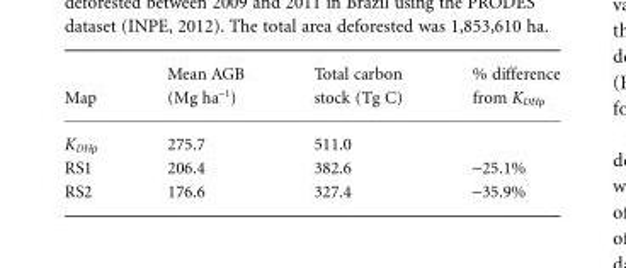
<table><thead><tr><td>Map</td><td>Mean AGB (Mg ha<sup>−1</sup>)</td><td>Total carbon stock (Tg C)</td><td>% difference from K<sub>DHρ</sub></td></tr></thead><tbody><tr><td>K<sub>DHρ</sub></td><td>275.7</td><td>511.0</td><td></td></tr><tr><td>RS1</td><td>206.4</td><td>382.6</td><td>−25.1%</td></tr><tr><td>RS2</td><td>176.6</td><td>327.4</td><td>−35.9%</td></tr></tbody></table>